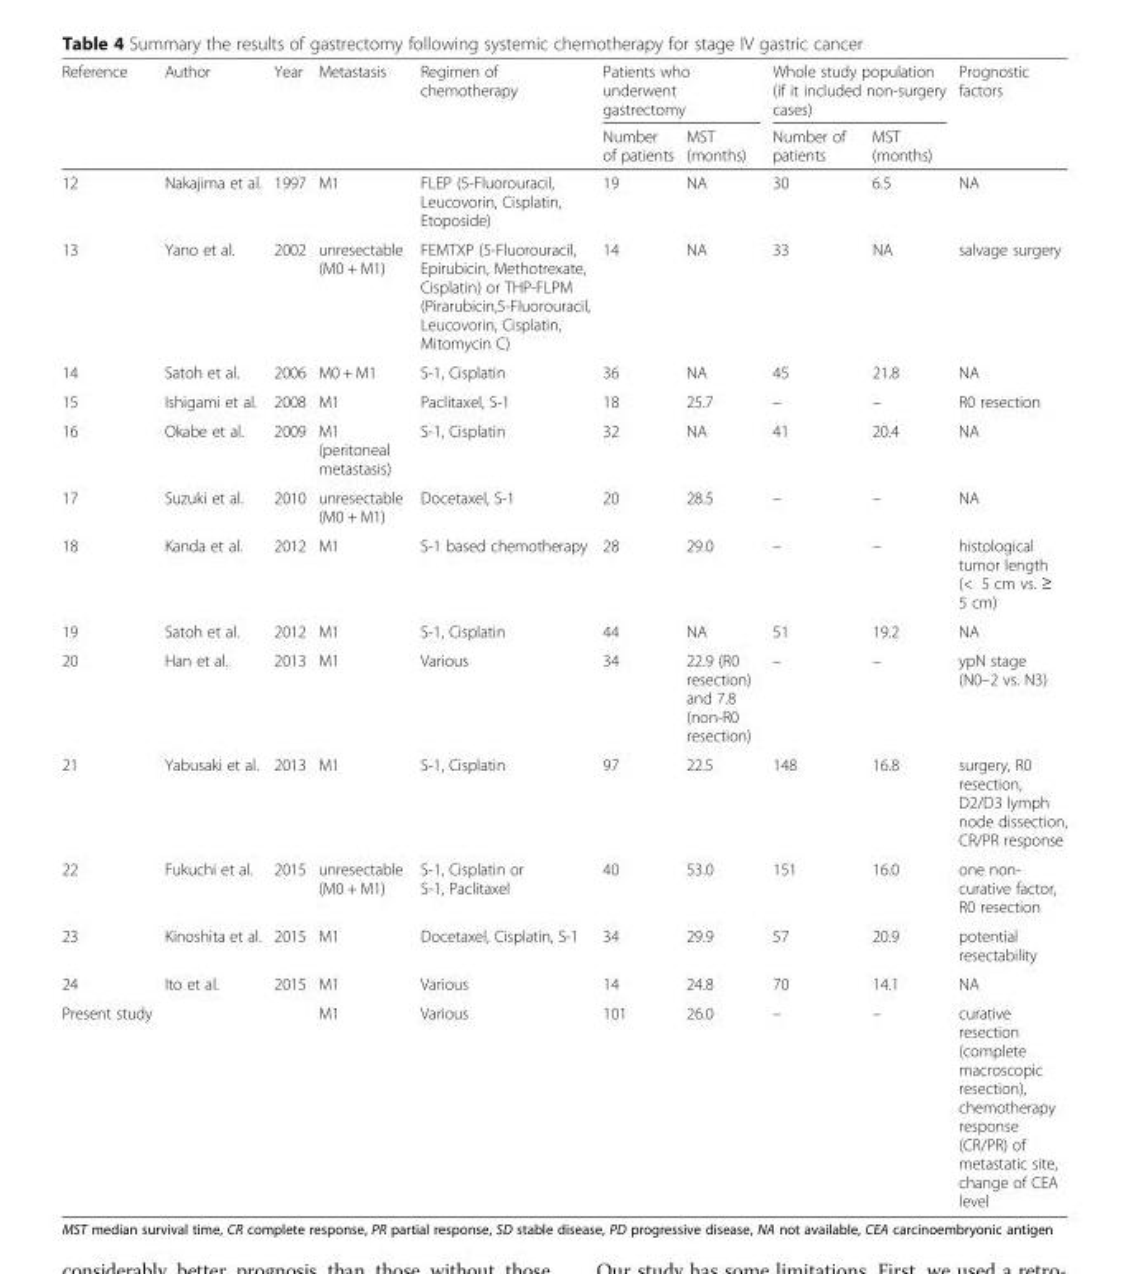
<table><thead><tr><td rowspan="2">Reference</td><td rowspan="2">Author</td><td rowspan="2">Year</td><td rowspan="2">Metastasis</td><td rowspan="2">Regimen of chemotherapy</td><td colspan="2">Patients who underwent gastrectomy</td><td colspan="2">Whole study population (if it included non-surgery cases)</td><td rowspan="2">Prognostic factors</td></tr><tr><td>Number of patients</td><td>MST (months)</td><td>Number of patients</td><td>MST (months)</td></tr></thead><tbody><tr><td>12</td><td>Nakajima et al.</td><td>1997</td><td>M1</td><td>FLEP (5-Fluorouracil, Leucovorin, Cisplatin, Etoposide)</td><td>19</td><td>NA</td><td>30</td><td>6.5</td><td>NA</td></tr><tr><td>13</td><td>Yano et al.</td><td>2002</td><td>unresectable (M0 + M1)</td><td>FEMTXP (5-Fluorouracil, Epirubicin, Methotrexate, Cisplatin) or THP-FLPM (Pirarubicin,5-Fluorouracil, Leucovorin, Cisplatin, Mitomycin C)</td><td>14</td><td>NA</td><td>33</td><td>NA</td><td>salvage surgery</td></tr><tr><td>14</td><td>Satoh et al.</td><td>2006</td><td>M0 + M1</td><td>S-1, Cisplatin</td><td>36</td><td>NA</td><td>45</td><td>21.8</td><td>NA</td></tr><tr><td>15</td><td>Ishigami et al.</td><td>2008</td><td>M1</td><td>Paclitaxel, S-1</td><td>18</td><td>25.7</td><td>–</td><td>–</td><td>R0 resection</td></tr><tr><td>16</td><td>Okabe et al.</td><td>2009</td><td>M1 (peritoneal metastasis)</td><td>S-1, Cisplatin</td><td>32</td><td>NA</td><td>41</td><td>20.4</td><td>NA</td></tr><tr><td>17</td><td>Suzuki et al.</td><td>2010</td><td>unresectable (M0 + M1)</td><td>Docetaxel, S-1</td><td>20</td><td>28.5</td><td>–</td><td>–</td><td>NA</td></tr><tr><td>18</td><td>Kanda et al.</td><td>2012</td><td>M1</td><td>S-1 based chemotherapy</td><td>28</td><td>29.0</td><td>–</td><td>–</td><td>histological tumor length (&lt; 5 cm vs. ≥ 5 cm)</td></tr><tr><td>19</td><td>Satoh et al.</td><td>2012</td><td>M1</td><td>S-1, Cisplatin</td><td>44</td><td>NA</td><td>51</td><td>19.2</td><td>NA</td></tr><tr><td>20</td><td>Han et al.</td><td>2013</td><td>M1</td><td>Various</td><td>34</td><td>22.9 (R0 resection) and 7.8 (non-R0 resection)</td><td>–</td><td>–</td><td>ypN stage (N0–2 vs. N3)</td></tr><tr><td>21</td><td>Yabusaki et al.</td><td>2013</td><td>M1</td><td>S-1, Cisplatin</td><td>97</td><td>22.5</td><td>148</td><td>16.8</td><td>surgery, R0 resection, D2/D3 lymph node dissection, CR/PR response</td></tr><tr><td>22</td><td>Fukuchi et al.</td><td>2015</td><td>unresectable (M0 + M1)</td><td>S-1, Cisplatin or S-1, Paclitaxel</td><td>40</td><td>53.0</td><td>151</td><td>16.0</td><td>one non- curative factor, R0 resection</td></tr><tr><td>23</td><td>Kinoshita et al.</td><td>2015</td><td>M1</td><td>Docetaxel, Cisplatin, S-1</td><td>34</td><td>29.9</td><td>57</td><td>20.9</td><td>potential resectability</td></tr><tr><td>24</td><td>Ito et al.</td><td>2015</td><td>M1</td><td>Various</td><td>14</td><td>24.8</td><td>70</td><td>14.1</td><td>NA</td></tr><tr><td>Present study</td><td></td><td></td><td>M1</td><td>Various</td><td>101</td><td>26.0</td><td>–</td><td>–</td><td>curative resection (complete macroscopic resection), chemotherapy response (CR/PR) of metastatic site, change of CEA level</td></tr></tbody></table>